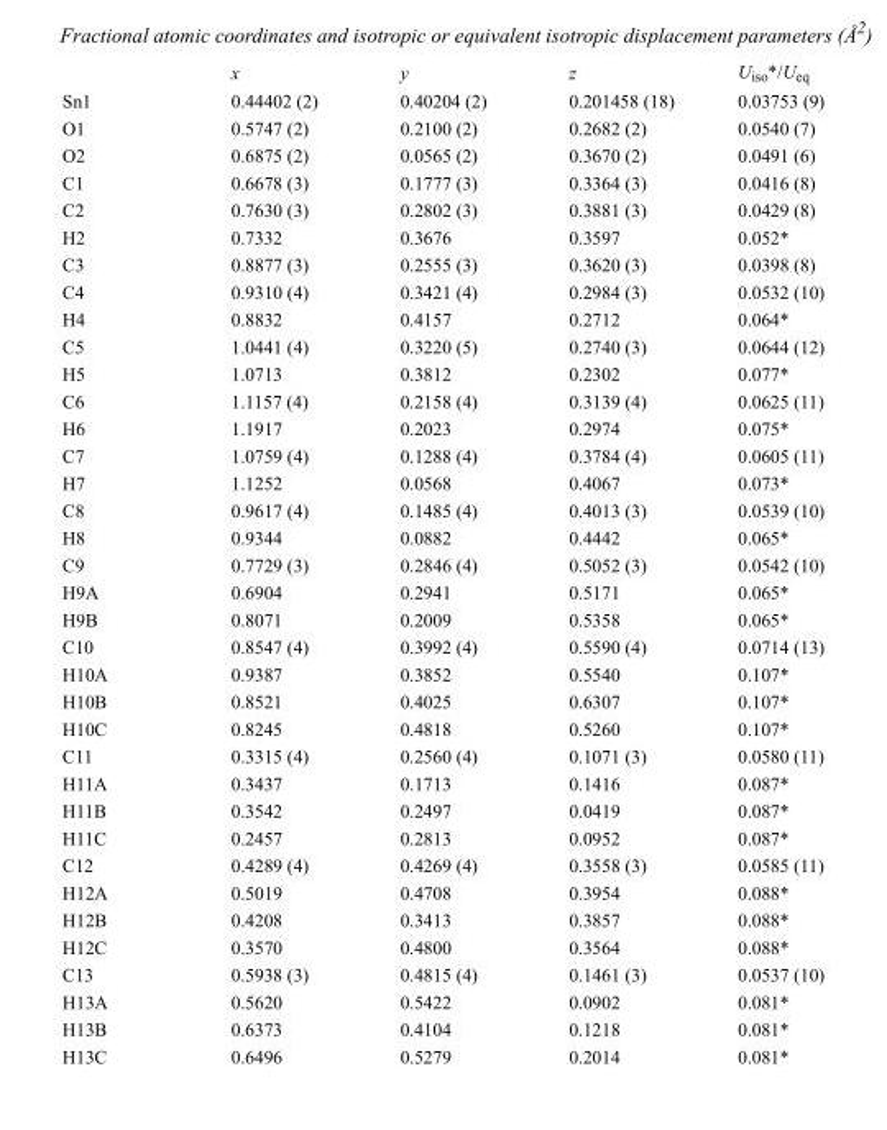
<table><thead><tr><td></td><td>x</td><td>y</td><td>z</td><td>U<sub>iso</sub>*/U<sub>eq</sub></td></tr></thead><tbody><tr><td>Sn1</td><td>0.44402 (2)</td><td>0.40204 (2)</td><td>0.201458 (18)</td><td>0.03753 (9)</td></tr><tr><td>O1</td><td>0.5747 (2)</td><td>0.2100 (2)</td><td>0.2682 (2)</td><td>0.0540 (7)</td></tr><tr><td>O2</td><td>0.6875 (2)</td><td>0.0565 (2)</td><td>0.3670 (2)</td><td>0.0491 (6)</td></tr><tr><td>C1</td><td>0.6678 (3)</td><td>0.1777 (3)</td><td>0.3364 (3)</td><td>0.0416 (8)</td></tr><tr><td>C2</td><td>0.7630 (3)</td><td>0.2802 (3)</td><td>0.3881 (3)</td><td>0.0429 (8)</td></tr><tr><td>H2</td><td>0.7332</td><td>0.3676</td><td>0.3597</td><td>0.052*</td></tr><tr><td>C3</td><td>0.8877 (3)</td><td>0.2555 (3)</td><td>0.3620 (3)</td><td>0.0398 (8)</td></tr><tr><td>C4</td><td>0.9310 (4)</td><td>0.3421 (4)</td><td>0.2984 (3)</td><td>0.0532 (10)</td></tr><tr><td>H4</td><td>0.8832</td><td>0.4157</td><td>0.2712</td><td>0.064*</td></tr><tr><td>C5</td><td>1.0441 (4)</td><td>0.3220 (5)</td><td>0.2740 (3)</td><td>0.0644 (12)</td></tr><tr><td>H5</td><td>1.0713</td><td>0.3812</td><td>0.2302</td><td>0.077*</td></tr><tr><td>C6</td><td>1.1157 (4)</td><td>0.2158 (4)</td><td>0.3139 (4)</td><td>0.0625 (11)</td></tr><tr><td>H6</td><td>1.1917</td><td>0.2023</td><td>0.2974</td><td>0.075*</td></tr><tr><td>C7</td><td>1.0759 (4)</td><td>0.1288 (4)</td><td>0.3784 (4)</td><td>0.0605 (11)</td></tr><tr><td>H7</td><td>1.1252</td><td>0.0568</td><td>0.4067</td><td>0.073*</td></tr><tr><td>C8</td><td>0.9617 (4)</td><td>0.1485 (4)</td><td>0.4013 (3)</td><td>0.0539 (10)</td></tr><tr><td>H8</td><td>0.9344</td><td>0.0882</td><td>0.4442</td><td>0.065*</td></tr><tr><td>C9</td><td>0.7729 (3)</td><td>0.2846 (4)</td><td>0.5052 (3)</td><td>0.0542 (10)</td></tr><tr><td>H9A</td><td>0.6904</td><td>0.2941</td><td>0.5171</td><td>0.065*</td></tr><tr><td>H9B</td><td>0.8071</td><td>0.2009</td><td>0.5358</td><td>0.065*</td></tr><tr><td>C10</td><td>0.8547 (4)</td><td>0.3992 (4)</td><td>0.5590 (4)</td><td>0.0714 (13)</td></tr><tr><td>H10A</td><td>0.9387</td><td>0.3852</td><td>0.5540</td><td>0.107*</td></tr><tr><td>H10B</td><td>0.8521</td><td>0.4025</td><td>0.6307</td><td>0.107*</td></tr><tr><td>H10C</td><td>0.8245</td><td>0.4818</td><td>0.5260</td><td>0.107*</td></tr><tr><td>C11</td><td>0.3315 (4)</td><td>0.2560 (4)</td><td>0.1071 (3)</td><td>0.0580 (11)</td></tr><tr><td>H11A</td><td>0.3437</td><td>0.1713</td><td>0.1416</td><td>0.087*</td></tr><tr><td>H11B</td><td>0.3542</td><td>0.2497</td><td>0.0419</td><td>0.087*</td></tr><tr><td>H11C</td><td>0.2457</td><td>0.2813</td><td>0.0952</td><td>0.087*</td></tr><tr><td>C12</td><td>0.4289 (4)</td><td>0.4269 (4)</td><td>0.3558 (3)</td><td>0.0585 (11)</td></tr><tr><td>H12A</td><td>0.5019</td><td>0.4708</td><td>0.3954</td><td>0.088*</td></tr><tr><td>H12B</td><td>0.4208</td><td>0.3413</td><td>0.3857</td><td>0.088*</td></tr><tr><td>H12C</td><td>0.3570</td><td>0.4800</td><td>0.3564</td><td>0.088*</td></tr><tr><td>C13</td><td>0.5938 (3)</td><td>0.4815 (4)</td><td>0.1461 (3)</td><td>0.0537 (10)</td></tr><tr><td>H13A</td><td>0.5620</td><td>0.5422</td><td>0.0902</td><td>0.081*</td></tr><tr><td>H13B</td><td>0.6373</td><td>0.4104</td><td>0.1218</td><td>0.081*</td></tr><tr><td>H13C</td><td>0.6496</td><td>0.5279</td><td>0.2014</td><td>0.081*</td></tr></tbody></table>